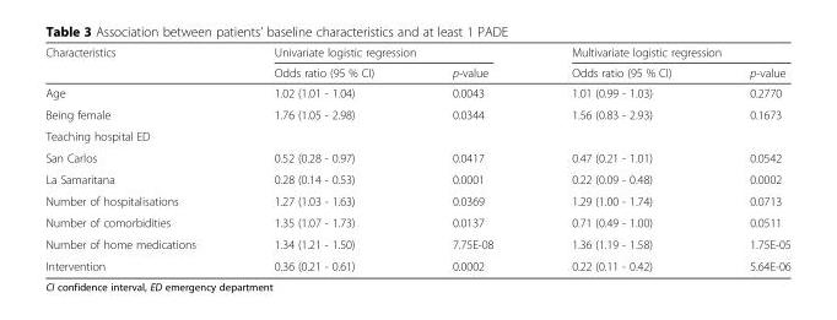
<table><thead><tr><td rowspan="2">Characteristics</td><td colspan="2">Univariate logistic regression</td><td colspan="2">Multivariate logistic regression</td></tr><tr><td>Odds ratio (95 % CI)</td><td>p-value</td><td>Odds ratio (95 % CI)</td><td>p-value</td></tr></thead><tbody><tr><td>Age</td><td>1.02 (1.01 - 1.04)</td><td>0.0043</td><td>1.01 (0.99 - 1.03)</td><td>0.2770</td></tr><tr><td>Being female</td><td>1.76 (1.05 - 2.98)</td><td>0.0344</td><td>1.56 (0.83 - 2.93)</td><td>0.1673</td></tr><tr><td colspan="5">Teaching hospital ED</td></tr><tr><td>San Carlos</td><td>0.52 (0.28 - 0.97)</td><td>0.0417</td><td>0.47 (0.21 - 1.01)</td><td>0.0542</td></tr><tr><td>La Samaritana</td><td>0.28 (0.14 - 0.53)</td><td>0.0001</td><td>0.22 (0.09 - 0.48)</td><td>0.0002</td></tr><tr><td>Number of hospitalisations</td><td>1.27 (1.03 - 1.63)</td><td>0.0369</td><td>1.29 (1.00 - 1.74)</td><td>0.0713</td></tr><tr><td>Number of comorbidities</td><td>1.35 (1.07 - 1.73)</td><td>0.0137</td><td>0.71 (0.49 - 1.00)</td><td>0.0511</td></tr><tr><td>Number of home medications</td><td>1.34 (1.21 - 1.50)</td><td>7.75E-08</td><td>1.36 (1.19 - 1.58)</td><td>1.75E-05</td></tr><tr><td>Intervention</td><td>0.36 (0.21 - 0.61)</td><td>0.0002</td><td>0.22 (0.11 - 0.42)</td><td>5.64E-06</td></tr></tbody></table>